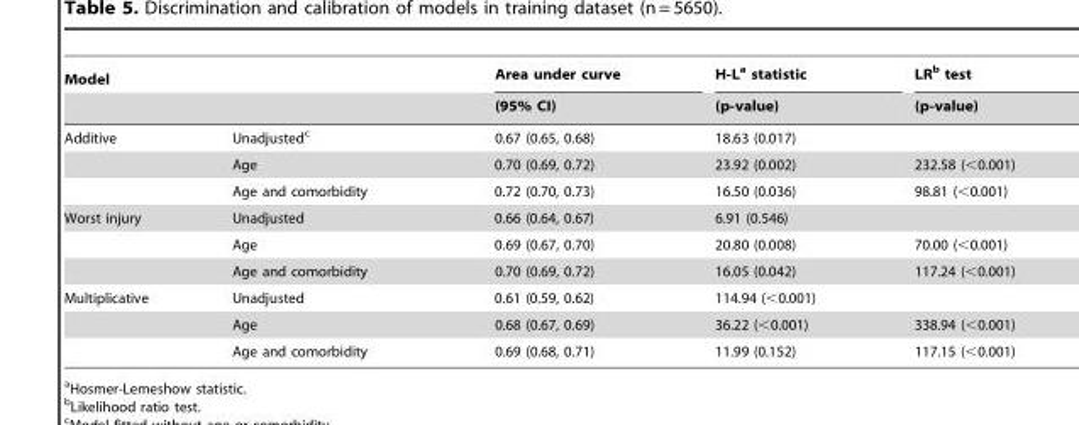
<table><thead><tr><td colspan="2">Model</td><td rowspan="2">Area under curve (95% CI)</td><td rowspan="2">H-L<sup>a</sup> statistic (p-value)</td><td rowspan="2">LR<sup>b</sup> test (p-value)</td></tr><tr><td></td><td></td></tr></thead><tbody><tr><td rowspan="3">Additive</td><td>Unadjusted<sup>c</sup></td><td>0.67 (0.65, 0.68)</td><td>18.63 (0.017)</td><td></td></tr><tr><td>Age</td><td>0.70 (0.69, 0.72)</td><td>23.92 (0.002)</td><td>232.58 (&lt;0.001)</td></tr><tr><td>Age and comorbidity</td><td>0.72 (0.70, 0.73)</td><td>16.50 (0.036)</td><td>98.81 (&lt;0.001)</td></tr><tr><td rowspan="3">Worst injury</td><td>Unadjusted</td><td>0.66 (0.64, 0.67)</td><td>6.91 (0.546)</td><td></td></tr><tr><td>Age</td><td>0.69 (0.67, 0.70)</td><td>20.80 (0.008)</td><td>70.00 (&lt;0.001)</td></tr><tr><td>Age and comorbidity</td><td>0.70 (0.69, 0.72)</td><td>16.05 (0.042)</td><td>117.24 (&lt;0.001)</td></tr><tr><td rowspan="3">Multiplicative</td><td>Unadjusted</td><td>0.61 (0.59, 0.62)</td><td>114.94 (&lt;0.001)</td><td></td></tr><tr><td>Age</td><td>0.68 (0.67, 0.69)</td><td>36.22 (&lt;0.001)</td><td>338.94 (&lt;0.001)</td></tr><tr><td>Age and comorbidity</td><td>0.69 (0.68, 0.71)</td><td>11.99 (0.152)</td><td>117.15 (&lt;0.001)</td></tr></tbody></table>